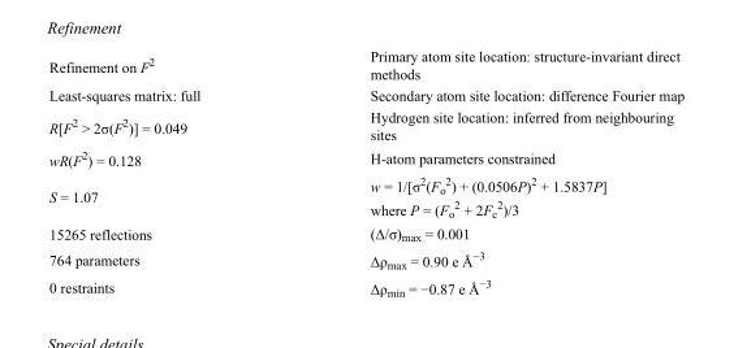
<table><tbody><tr><td>Refinement on F<sup>2</sup></td><td>Primary atom site location: structure-invariant direct methods</td></tr><tr><td>Least-squares matrix: full</td><td>Secondary atom site location: difference Fourier map</td></tr><tr><td>R[F<sup>2</sup> &gt; 2σ(F<sup>2</sup>)] = 0.049</td><td>Hydrogen site location: inferred from neighbouring sites</td></tr><tr><td>wR(F<sup>2</sup>) = 0.128</td><td>H-atom parameters constrained</td></tr><tr><td>S = 1.07</td><td>w = 1/[σ<sup>2</sup>(F<sub>o</sub> <sup>2</sup>) + (0.0506P)<sup>2</sup> + 1.5837P] where P = (F<sub>o</sub> <sup>2</sup> + 2F<sub>c</sub> <sup>2</sup>)/3</td></tr><tr><td>15265 reflections</td><td>(Δ/σ)<sub>max</sub> = 0.001</td></tr><tr><td>764 parameters</td><td>Δρ<sub>max</sub> = 0.90 e Å<sup>−3</sup></td></tr><tr><td>0 restraints</td><td>Δρ<sub>min</sub> = −0.87 e Å<sup>−3</sup></td></tr></tbody></table>